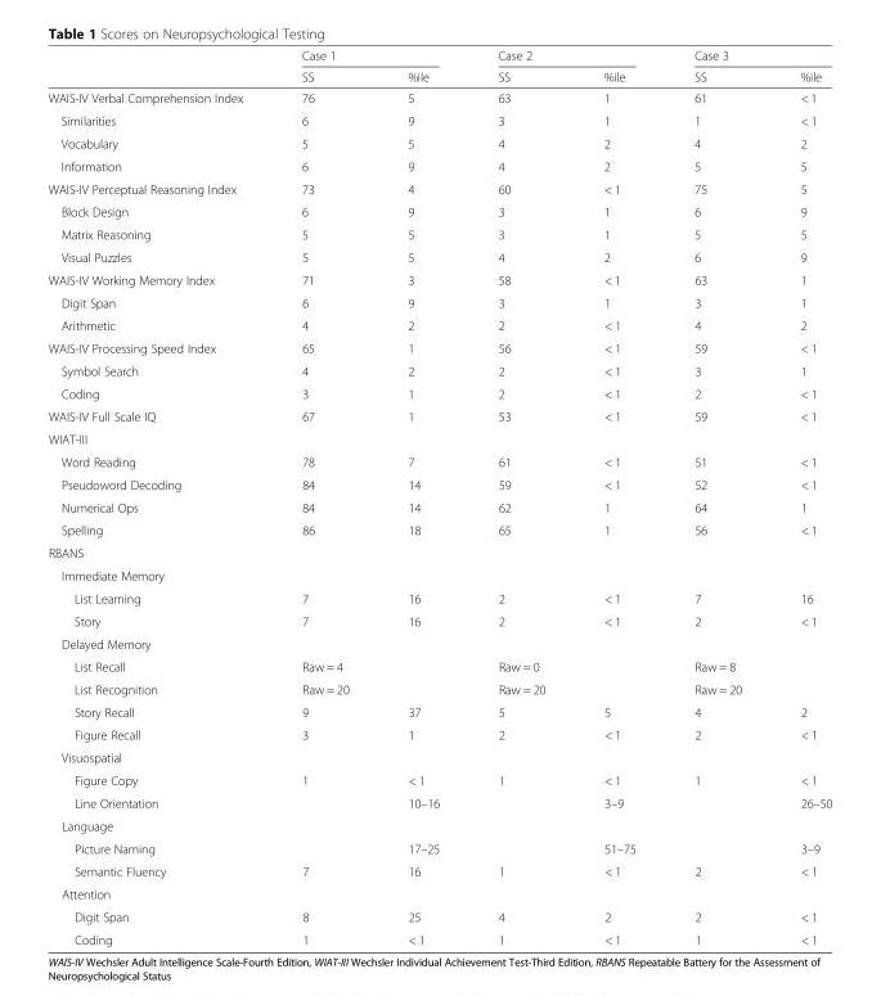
<table><thead><tr><td rowspan="2"></td><td colspan="2">Case 1</td><td colspan="2">Case 2</td><td colspan="2">Case 3</td></tr><tr><td>SS</td><td>%ile</td><td>SS</td><td>%ile</td><td>SS</td><td>%ile</td></tr></thead><tbody><tr><td>WAIS-IV Verbal Comprehension Index</td><td>76</td><td>5</td><td>63</td><td>1</td><td>61</td><td>&lt; 1</td></tr><tr><td>Similarities</td><td>6</td><td>9</td><td>3</td><td>1</td><td>1</td><td>&lt; 1</td></tr><tr><td>Vocabulary</td><td>5</td><td>5</td><td>4</td><td>2</td><td>4</td><td>2</td></tr><tr><td>Information</td><td>6</td><td>9</td><td>4</td><td>2</td><td>5</td><td>5</td></tr><tr><td>WAIS-IV Perceptual Reasoning Index</td><td>73</td><td>4</td><td>60</td><td>&lt; 1</td><td>75</td><td>5</td></tr><tr><td>Block Design</td><td>6</td><td>9</td><td>3</td><td>1</td><td>6</td><td>9</td></tr><tr><td>Matrix Reasoning</td><td>5</td><td>5</td><td>3</td><td>1</td><td>5</td><td>5</td></tr><tr><td>Visual Puzzles</td><td>5</td><td>5</td><td>4</td><td>2</td><td>6</td><td>9</td></tr><tr><td>WAIS-IV Working Memory Index</td><td>71</td><td>3</td><td>58</td><td>&lt; 1</td><td>63</td><td>1</td></tr><tr><td>Digit Span</td><td>6</td><td>9</td><td>3</td><td>1</td><td>3</td><td>1</td></tr><tr><td>Arithmetic</td><td>4</td><td>2</td><td>2</td><td>&lt; 1</td><td>4</td><td>2</td></tr><tr><td>WAIS-IV Processing Speed Index</td><td>65</td><td>1</td><td>56</td><td>&lt; 1</td><td>59</td><td>&lt; 1</td></tr><tr><td>Symbol Search</td><td>4</td><td>2</td><td>2</td><td>&lt; 1</td><td>3</td><td>1</td></tr><tr><td>Coding</td><td>3</td><td>1</td><td>2</td><td>&lt; 1</td><td>2</td><td>&lt; 1</td></tr><tr><td>WAIS-IV Full Scale IQ</td><td>67</td><td>1</td><td>53</td><td>&lt; 1</td><td>59</td><td>&lt; 1</td></tr><tr><td colspan="7">WIAT-III</td></tr><tr><td>Word Reading</td><td>78</td><td>7</td><td>61</td><td>&lt; 1</td><td>51</td><td>&lt; 1</td></tr><tr><td>Pseudoword Decoding</td><td>84</td><td>14</td><td>59</td><td>&lt; 1</td><td>52</td><td>&lt; 1</td></tr><tr><td>Numerical Ops</td><td>84</td><td>14</td><td>62</td><td>1</td><td>64</td><td>1</td></tr><tr><td>Spelling</td><td>86</td><td>18</td><td>65</td><td>1</td><td>56</td><td>&lt; 1</td></tr><tr><td colspan="7">RBANS</td></tr><tr><td colspan="7">Immediate Memory</td></tr><tr><td>List Learning</td><td>7</td><td>16</td><td>2</td><td>&lt; 1</td><td>7</td><td>16</td></tr><tr><td>Story</td><td>7</td><td>16</td><td>2</td><td>&lt; 1</td><td>2</td><td>&lt; 1</td></tr><tr><td colspan="7">Delayed Memory</td></tr><tr><td>List Recall</td><td>Raw = 4</td><td></td><td>Raw = 0</td><td></td><td>Raw = 8</td><td></td></tr><tr><td>List Recognition</td><td>Raw = 20</td><td></td><td>Raw = 20</td><td></td><td>Raw = 20</td><td></td></tr><tr><td>Story Recall</td><td>9</td><td>37</td><td>5</td><td>5</td><td>4</td><td>2</td></tr><tr><td>Figure Recall</td><td>3</td><td>1</td><td>2</td><td>&lt; 1</td><td>2</td><td>&lt; 1</td></tr><tr><td colspan="7">Visuospatial</td></tr><tr><td>Figure Copy</td><td>1</td><td>&lt; 1</td><td>1</td><td>&lt; 1</td><td>1</td><td>&lt; 1</td></tr><tr><td>Line Orientation</td><td></td><td>10–16</td><td></td><td>3–9</td><td></td><td>26–50</td></tr><tr><td colspan="7">Language</td></tr><tr><td>Picture Naming</td><td></td><td>17–25</td><td></td><td>51–75</td><td></td><td>3–9</td></tr><tr><td>Semantic Fluency</td><td>7</td><td>16</td><td>1</td><td>&lt; 1</td><td>2</td><td>&lt; 1</td></tr><tr><td colspan="7">Attention</td></tr><tr><td>Digit Span</td><td>8</td><td>25</td><td>4</td><td>2</td><td>2</td><td>&lt; 1</td></tr><tr><td>Coding</td><td>1</td><td>&lt; 1</td><td>1</td><td>&lt; 1</td><td>1</td><td>&lt; 1</td></tr></tbody></table>